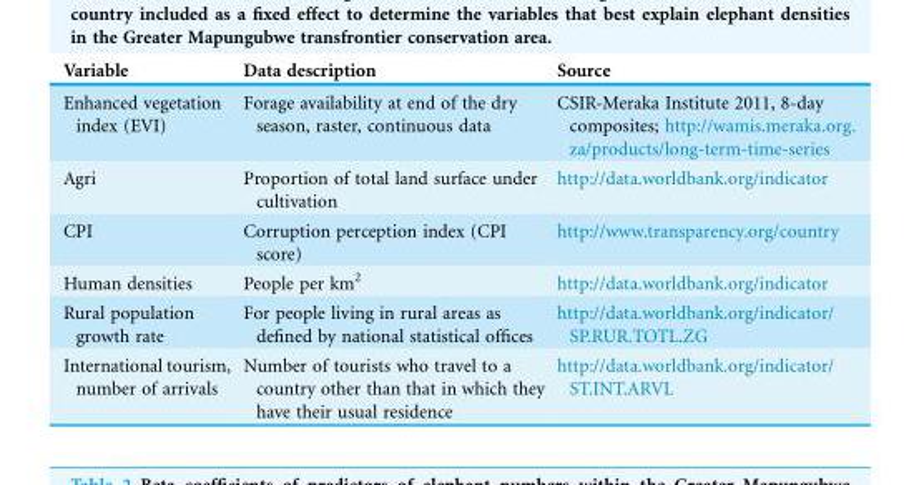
<table><thead><tr><td>Variable</td><td>Data description</td><td>Source</td></tr></thead><tbody><tr><td>Enhanced vegetation index (EVI)</td><td>Forage availability at end of the dry season, raster, continuous data</td><td>CSIR-Meraka Institute 2011, 8-day composites; http://wamis.meraka.org. za/products/long-term-time-series</td></tr><tr><td>Agri</td><td>Proportion of total land surface under cultivation</td><td>http://data.worldbank.org/indicator</td></tr><tr><td>CPI</td><td>Corruption perception index (CPI score)</td><td>http://www.transparency.org/country</td></tr><tr><td>Human densities</td><td>People per km<sup>2</sup></td><td>http://data.worldbank.org/indicator</td></tr><tr><td>Rural population growth rate</td><td>For people living in rural areas as defined by national statistical offices</td><td>http://data.worldbank.org/indicator/ SP.RUR.TOTL.ZG</td></tr><tr><td>International tourism, number of arrivals</td><td>Number of tourists who travel to a country other than that in which they have their usual residence</td><td>http://data.worldbank.org/indicator/ ST.INT.ARVL</td></tr></tbody></table>